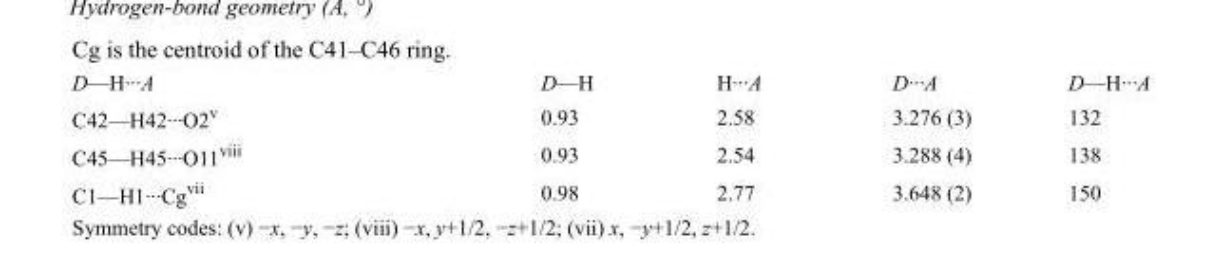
<table><tbody><tr><td>D—H···A</td><td>D—H</td><td>H···A</td><td>D···A</td><td>D—H···A</td></tr><tr><td>C42—H42···O2<sup>v</sup></td><td>0.93</td><td>2.58</td><td>3.276 (3)</td><td>132</td></tr><tr><td>C45—H45···O11<sup>viii</sup></td><td>0.93</td><td>2.54</td><td>3.288 (4)</td><td>138</td></tr><tr><td>C1—H1···Cg<sup>vii</sup></td><td>0.98</td><td>2.77</td><td>3.648 (2)</td><td>150</td></tr></tbody></table>